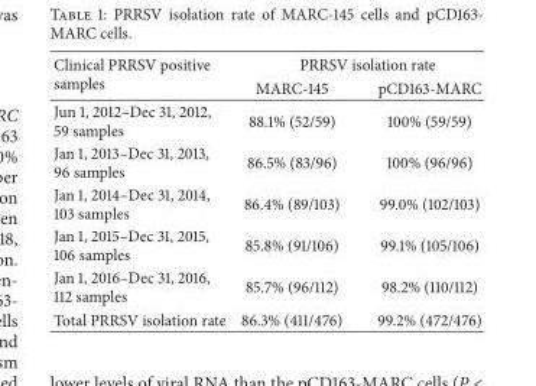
<table><thead><tr><td rowspan="2">Clinical PRRSV positive samples</td><td colspan="2">PRRSV isolation rate</td></tr><tr><td>MARC-145</td><td>pCD163-MARC</td></tr></thead><tbody><tr><td>Jun 1, 2012–Dec 31, 2012, 59 samples</td><td>88.1% (52/59)</td><td>100% (59/59)</td></tr><tr><td>Jan 1, 2013–Dec 31, 2013, 96 samples</td><td>86.5% (83/96)</td><td>100% (96/96)</td></tr><tr><td>Jan 1, 2014–Dec 31, 2014, 103 samples</td><td>86.4% (89/103)</td><td>99.0% (102/103)</td></tr><tr><td>Jan 1, 2015–Dec 31, 2015, 106 samples</td><td>85.8% (91/106)</td><td>99.1% (105/106)</td></tr><tr><td>Jan 1, 2016–Dec 31, 2016, 112 samples</td><td>85.7% (96/112)</td><td>98.2% (110/112)</td></tr><tr><td>Total PRRSV isolation rate</td><td>86.3% (411/476)</td><td>99.2% (472/476)</td></tr></tbody></table>